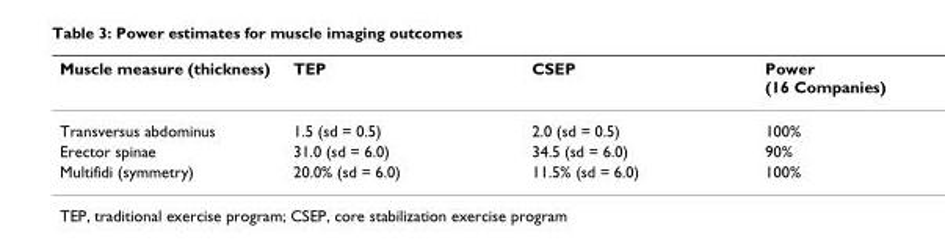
<table><thead><tr><td>Muscle measure (thickness)</td><td>TEP</td><td>CSEP</td><td>Power (16 Companies)</td></tr></thead><tbody><tr><td>Transversus abdominus</td><td>1.5 (sd = 0.5)</td><td>2.0 (sd = 0.5)</td><td>100%</td></tr><tr><td>Erector spinae</td><td>31.0 (sd = 6.0)</td><td>34.5 (sd = 6.0)</td><td>90%</td></tr><tr><td>Multifidi (symmetry)</td><td>20.0% (sd = 6.0)</td><td>11.5% (sd = 6.0)</td><td>100%</td></tr></tbody></table>